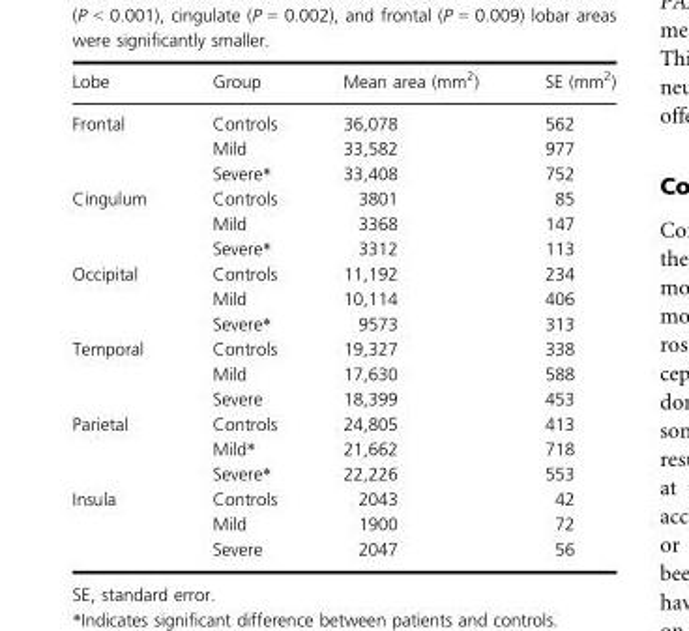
<table><thead><tr><td>Lobe</td><td>Group</td><td>Mean area (mm<sup>2</sup>)</td><td>SE (mm<sup>2</sup>)</td></tr></thead><tbody><tr><td rowspan="3">Frontal</td><td>Controls</td><td>36,078</td><td>562</td></tr><tr><td>Mild</td><td>33,582</td><td>977</td></tr><tr><td>Severe*</td><td>33,408</td><td>752</td></tr><tr><td rowspan="3">Cingulum</td><td>Controls</td><td>3801</td><td>85</td></tr><tr><td>Mild</td><td>3368</td><td>147</td></tr><tr><td>Severe*</td><td>3312</td><td>113</td></tr><tr><td rowspan="3">Occipital</td><td>Controls</td><td>11,192</td><td>234</td></tr><tr><td>Mild</td><td>10,114</td><td>406</td></tr><tr><td>Severe*</td><td>9573</td><td>313</td></tr><tr><td rowspan="3">Temporal</td><td>Controls</td><td>19,327</td><td>338</td></tr><tr><td>Mild</td><td>17,630</td><td>588</td></tr><tr><td>Severe</td><td>18,399</td><td>453</td></tr><tr><td rowspan="3">Parietal</td><td>Controls</td><td>24,805</td><td>413</td></tr><tr><td>Mild*</td><td>21,662</td><td>718</td></tr><tr><td>Severe*</td><td>22,226</td><td>553</td></tr><tr><td rowspan="3">Insula</td><td>Controls</td><td>2043</td><td>42</td></tr><tr><td>Mild</td><td>1900</td><td>72</td></tr><tr><td>Severe</td><td>2047</td><td>56</td></tr></tbody></table>